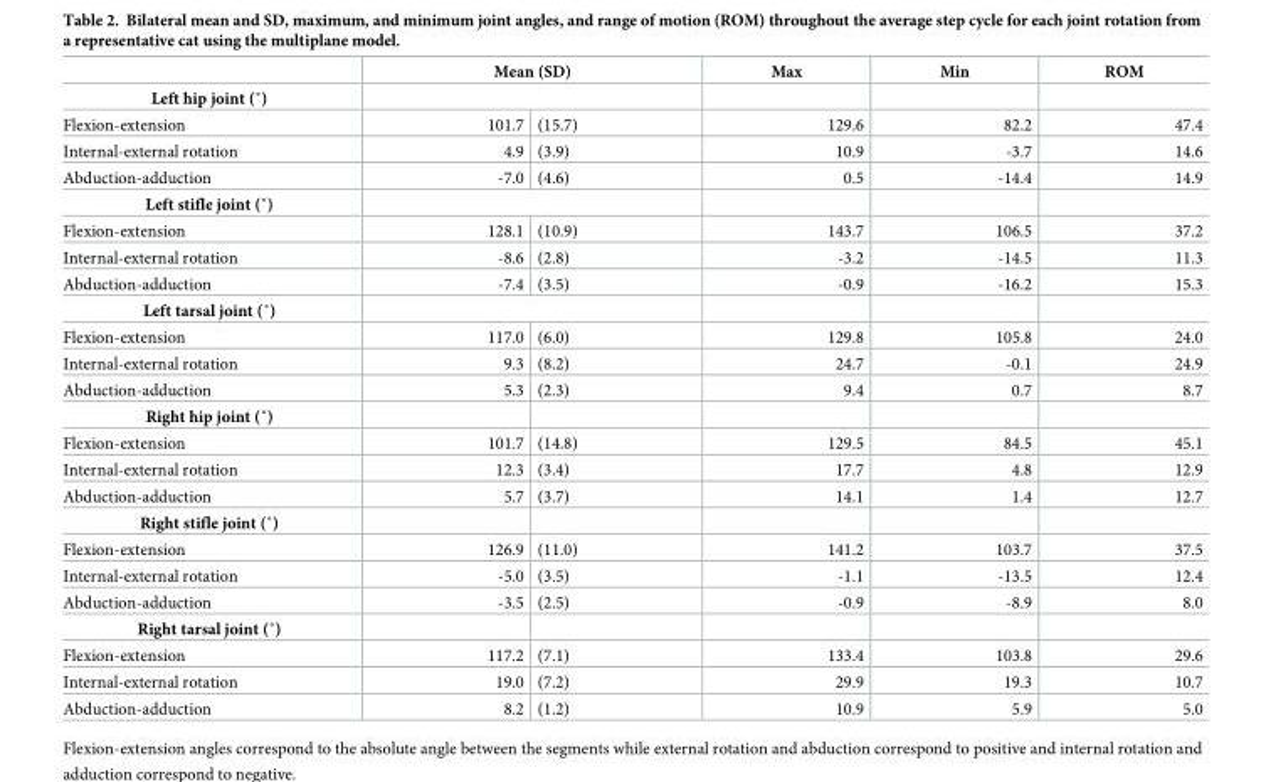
<table><thead><tr><td rowspan="3">Left hip joint (˚) Flexion-extension</td><td rowspan="2" colspan="2">Mean (SD)</td><td rowspan="3">Max 129.6</td><td rowspan="3">Min 82.2</td><td rowspan="3">ROM 47.4</td></tr><tr></tr><tr><td>101.7</td><td>(15.7)</td></tr></thead><tbody><tr><td>Internal-external rotation</td><td>4.9</td><td>(3.9)</td><td>10.9</td><td>-3.7</td><td>14.6</td></tr><tr><td>Abduction-adduction</td><td>-7.0</td><td>(4.6)</td><td>0.5</td><td>-14.4</td><td>14.9</td></tr><tr><td colspan="6">Left stifle joint (˚)</td></tr><tr><td>Flexion-extension</td><td>128.1</td><td>(10.9)</td><td>143.7</td><td>106.5</td><td>37.2</td></tr><tr><td>Internal-external rotation</td><td>-8.6</td><td>(2.8)</td><td>-3.2</td><td>-14.5</td><td>11.3</td></tr><tr><td>Abduction-adduction</td><td>-7.4</td><td>(3.5)</td><td>-0.9</td><td>-16.2</td><td>15.3</td></tr><tr><td colspan="6">Left tarsal joint (˚)</td></tr><tr><td>Flexion-extension</td><td>117.0</td><td>(6.0)</td><td>129.8</td><td>105.8</td><td>24.0</td></tr><tr><td>Internal-external rotation</td><td>9.3</td><td>(8.2)</td><td>24.7</td><td>-0.1</td><td>24.9</td></tr><tr><td>Abduction-adduction</td><td>5.3</td><td>(2.3)</td><td>9.4</td><td>0.7</td><td>8.7</td></tr><tr><td colspan="6">Right hip joint (˚)</td></tr><tr><td>Flexion-extension</td><td>101.7</td><td>(14.8)</td><td>129.5</td><td>84.5</td><td>45.1</td></tr><tr><td>Internal-external rotation</td><td>12.3</td><td>(3.4)</td><td>17.7</td><td>4.8</td><td>12.9</td></tr><tr><td>Abduction-adduction</td><td>5.7</td><td>(3.7)</td><td>14.1</td><td>1.4</td><td>12.7</td></tr><tr><td colspan="6">Right stifle joint (˚)</td></tr><tr><td>Flexion-extension</td><td>126.9</td><td>(11.0)</td><td>141.2</td><td>103.7</td><td>37.5</td></tr><tr><td>Internal-external rotation</td><td>-5.0</td><td>(3.5)</td><td>-1.1</td><td>-13.5</td><td>12.4</td></tr><tr><td>Abduction-adduction</td><td>-3.5</td><td>(2.5)</td><td>-0.9</td><td>-8.9</td><td>8.0</td></tr><tr><td colspan="6">Right tarsal joint (˚)</td></tr><tr><td>Flexion-extension</td><td>117.2</td><td>(7.1)</td><td>133.4</td><td>103.8</td><td>29.6</td></tr><tr><td>Internal-external rotation</td><td>19.0</td><td>(7.2)</td><td>29.9</td><td>19.3</td><td>10.7</td></tr><tr><td>Abduction-adduction</td><td>8.2</td><td>(1.2)</td><td>10.9</td><td>5.9</td><td>5.0</td></tr></tbody></table>